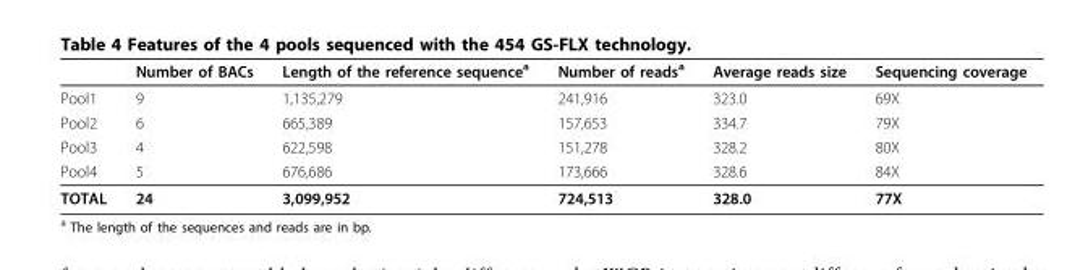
<table><thead><tr><td></td><td>Number of BACs</td><td>Length of the reference sequence<sup>a</sup></td><td>Number of reads<sup>a</sup></td><td>Average reads size</td><td>Sequencing coverage</td></tr></thead><tbody><tr><td>Pool1</td><td>9</td><td>1,135,279</td><td>241,916</td><td>323.0</td><td>69X</td></tr><tr><td>Pool2</td><td>6</td><td>665,389</td><td>157,653</td><td>334.7</td><td>79X</td></tr><tr><td>Pool3</td><td>4</td><td>622,598</td><td>151,278</td><td>328.2</td><td>80X</td></tr><tr><td>Pool4</td><td>5</td><td>676,686</td><td>173,666</td><td>328.6</td><td>84X</td></tr><tr><td>TOTAL</td><td>24</td><td>3,099,952</td><td>724,513</td><td>328.0</td><td>77X</td></tr></tbody></table>